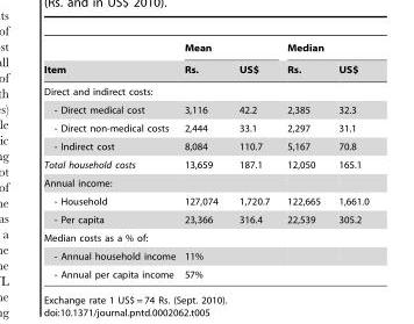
<table><thead><tr><td rowspan="2">Item</td><td colspan="2">Mean</td><td colspan="2">Median</td></tr><tr><td>Rs.</td><td>US$</td><td>Rs.</td><td>US$</td></tr></thead><tbody><tr><td colspan="5">Direct and indirect costs:</td></tr><tr><td>- Direct medical cost</td><td>3,116</td><td>42.2</td><td>2,385</td><td>32.3</td></tr><tr><td>- Direct non-medical costs</td><td>2,444</td><td>33.1</td><td>2,297</td><td>31.1</td></tr><tr><td>- Indirect cost</td><td>8,084</td><td>110.7</td><td>5,167</td><td>70.8</td></tr><tr><td>Total household costs</td><td>13,659</td><td>187.1</td><td>12,050</td><td>165.1</td></tr><tr><td colspan="5">Annual income:</td></tr><tr><td>- Household</td><td>127,074</td><td>1,720.7</td><td>122,665</td><td>1,661.0</td></tr><tr><td>- Per capita</td><td>23,366</td><td>316.4</td><td>22,539</td><td>305.2</td></tr><tr><td colspan="5">Median costs as a % of:</td></tr><tr><td>- Annual household income</td><td>11%</td><td></td><td></td><td></td></tr><tr><td>- Annual per capita income</td><td>57%</td><td></td><td></td><td></td></tr></tbody></table>